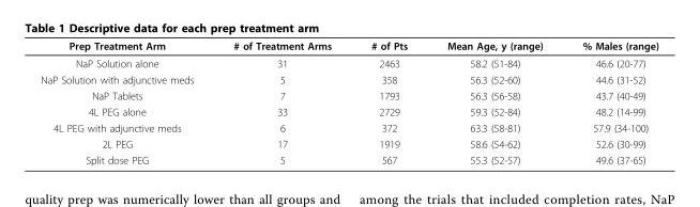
<table><thead><tr><td>Prep Treatment Arm</td><td># of Treatment Arms</td><td># of Pts</td><td>Mean Age, y (range)</td><td>% Males (range)</td></tr></thead><tbody><tr><td>NaP Solution alone</td><td>31</td><td>2463</td><td>58.2 (51-84)</td><td>46.6 (20-77)</td></tr><tr><td>NaP Solution with adjunctive meds</td><td>5</td><td>358</td><td>56.3 (52-60)</td><td>44.6 (31-52)</td></tr><tr><td>NaP Tablets</td><td>7</td><td>1793</td><td>56.3 (56-58)</td><td>43.7 (40-49)</td></tr><tr><td>4L PEG alone</td><td>33</td><td>2729</td><td>59.3 (52-84)</td><td>48.2 (14-99)</td></tr><tr><td>4L PEG with adjunctive meds</td><td>6</td><td>372</td><td>63.3 (58-81)</td><td>57.9 (34-100)</td></tr><tr><td>2L PEG</td><td>17</td><td>1919</td><td>58.6 (54-62)</td><td>52.6 (30-99)</td></tr><tr><td>Split dose PEG</td><td>5</td><td>567</td><td>55.3 (52-57)</td><td>49.6 (37-65)</td></tr></tbody></table>